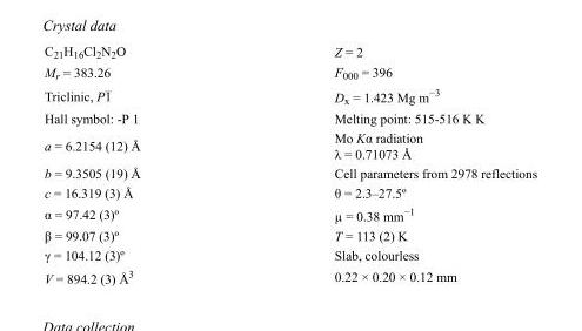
<table><tbody><tr><td>C<sub>21</sub>H<sub>16</sub>Cl<sub>2</sub>N<sub>2</sub>O</td><td>Z = 2</td></tr><tr><td>M<sub>r</sub> = 383.26</td><td>F<sub>000</sub> = 396</td></tr><tr><td>Triclinic, P1</td><td>D<sub>x</sub> = 1.423 Mg m<sup>−3</sup></td></tr><tr><td>Hall symbol: -P 1</td><td>Melting point: 515-516 K K</td></tr><tr><td>a = 6.2154 (12) Å</td><td>Mo Kα radiation λ = 0.71073 Å</td></tr><tr><td>b = 9.3505 (19) Å</td><td>Cell parameters from 2978 reflections</td></tr><tr><td>c = 16.319 (3) Å</td><td>θ = 2.3–27.5º</td></tr><tr><td>α = 97.42 (3)º</td><td>µ = 0.38 mm<sup>−1</sup></td></tr><tr><td>β = 99.07 (3)º</td><td>T = 113 (2) K</td></tr><tr><td>γ = 104.12 (3)º</td><td>Slab, colourless</td></tr><tr><td>V = 894.2 (3) Å<sup>3</sup></td><td>0.22 × 0.20 × 0.12 mm</td></tr></tbody></table>